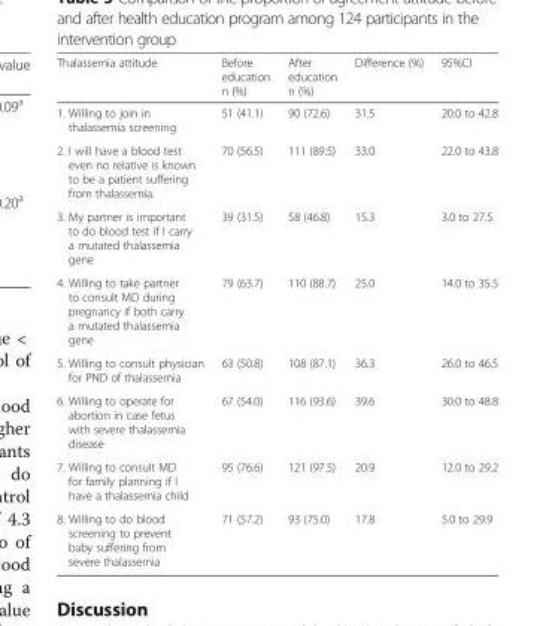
<table><thead><tr><td>Thalassemia attitude</td><td>Before education n (%)</td><td>After education n (%)</td><td>Difference (%)</td><td>95%CI</td></tr></thead><tbody><tr><td>1. Willing to join in thalassemia screening</td><td>51 (41.1)</td><td>90 (72.6)</td><td>31.5</td><td>20.0 to 42.8</td></tr><tr><td>2. I will have a blood test even no relative is known to be a patient suffering from thalassemia.</td><td>70 (56.5)</td><td>111 (89.5)</td><td>33.0</td><td>22.0 to 43.8</td></tr><tr><td>3. My partner is important to do blood test if I carry a mutated thalassemia gene</td><td>39 (31.5)</td><td>58 (46.8)</td><td>15.3</td><td>3.0 to 27.5</td></tr><tr><td>4. Willing to take partner to consult MD during pregnancy if both carry a mutated thalassemia gene</td><td>79 (63.7)</td><td>110 (88.7)</td><td>25.0</td><td>14.0 to 35.5</td></tr><tr><td>5. Willing to consult physician for PND of thalassemia</td><td>63 (50.8)</td><td>108 (87.1)</td><td>36.3</td><td>26.0 to 46.5</td></tr><tr><td>6. Willing to operate for abortion in case fetus with severe thalassemia disease</td><td>67 (54.0)</td><td>116 (93.6)</td><td>39.6</td><td>30.0 to 48.8</td></tr><tr><td>7. Willing to consult MD for family planning if I have a thalassemia child</td><td>95 (76.6)</td><td>121 (97.5)</td><td>20.9</td><td>12.0 to 29.2</td></tr><tr><td>8. Willing to do blood screening to prevent baby suffering from severe thalassemia</td><td>71 (57.2)</td><td>93 (75.0)</td><td>17.8</td><td>5.0 to 29.9</td></tr></tbody></table>